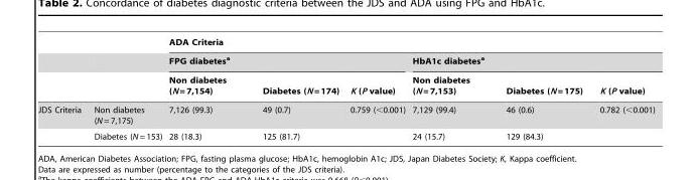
<table><thead><tr><td rowspan="3"></td><td rowspan="3"></td><td colspan="6">ADA Criteria</td></tr><tr><td colspan="3">FPG diabetes<sup>a</sup></td><td colspan="3">HbA1c diabetes<sup>a</sup></td></tr><tr><td>Non diabetes (N = 7,154)</td><td>Diabetes (N = 174)</td><td>K (P value)</td><td>Non diabetes (N = 7,153)</td><td>Diabetes (N = 175)</td><td>K (P value)</td></tr></thead><tbody><tr><td rowspan="2">JDS Criteria</td><td>Non diabetes (N = 7,175)</td><td>7,126 (99.3)</td><td>49 (0.7)</td><td>0.759 (&lt;0.001)</td><td>7,129 (99.4)</td><td>46 (0.6)</td><td>0.782 (&lt;0.001)</td></tr><tr><td>Diabetes (N = 153)</td><td>28 (18.3)</td><td>125 (81.7)</td><td></td><td>24 (15.7)</td><td>129 (84.3)</td><td></td></tr></tbody></table>